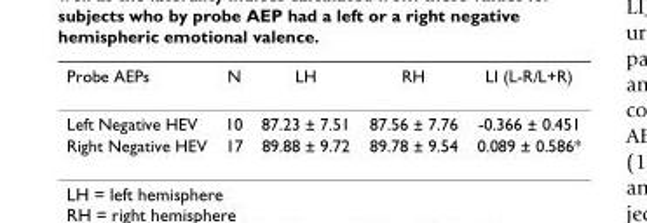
<table><thead><tr><td>Probe AEPs</td><td>N</td><td>LH</td><td>RH</td><td>LI (L-R/L+R)</td></tr></thead><tbody><tr><td>Left Negative HEV</td><td>10</td><td>87.23 ± 7.51</td><td>87.56 ± 7.76</td><td>-0.366 ± 0.451</td></tr><tr><td>Right Negative HEV</td><td>17</td><td>89.88 ± 9.72</td><td>89.78 ± 9.54</td><td>0.089 ± 0.586*</td></tr></tbody></table>